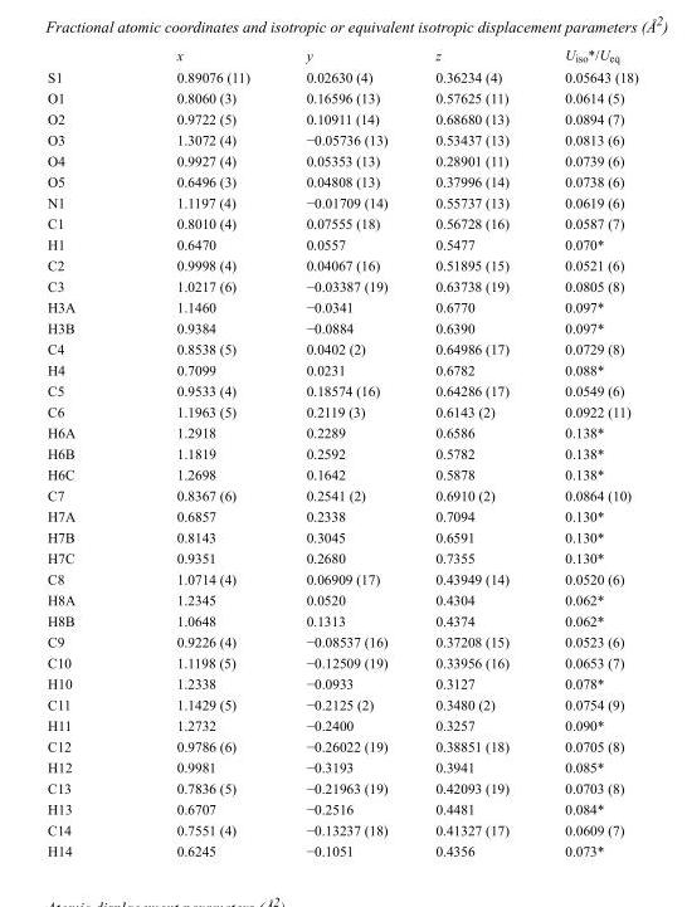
<table><thead><tr><td></td><td>x</td><td>y</td><td>z</td><td>U<sub>iso</sub>*/U<sub>eq</sub></td></tr></thead><tbody><tr><td>S1</td><td>0.89076 (11)</td><td>0.02630 (4)</td><td>0.36234 (4)</td><td>0.05643 (18)</td></tr><tr><td>O1</td><td>0.8060 (3)</td><td>0.16596 (13)</td><td>0.57625 (11)</td><td>0.0614 (5)</td></tr><tr><td>O2</td><td>0.9722 (5)</td><td>0.10911 (14)</td><td>0.68680 (13)</td><td>0.0894 (7)</td></tr><tr><td>O3</td><td>1.3072 (4)</td><td>−0.05736 (13)</td><td>0.53437 (13)</td><td>0.0813 (6)</td></tr><tr><td>O4</td><td>0.9927 (4)</td><td>0.05353 (13)</td><td>0.28901 (11)</td><td>0.0739 (6)</td></tr><tr><td>O5</td><td>0.6496 (3)</td><td>0.04808 (13)</td><td>0.37996 (14)</td><td>0.0738 (6)</td></tr><tr><td>N1</td><td>1.1197 (4)</td><td>−0.01709 (14)</td><td>0.55737 (13)</td><td>0.0619 (6)</td></tr><tr><td>C1</td><td>0.8010 (4)</td><td>0.07555 (18)</td><td>0.56728 (16)</td><td>0.0587 (7)</td></tr><tr><td>H1</td><td>0.6470</td><td>0.0557</td><td>0.5477</td><td>0.070*</td></tr><tr><td>C2</td><td>0.9998 (4)</td><td>0.04067 (16)</td><td>0.51895 (15)</td><td>0.0521 (6)</td></tr><tr><td>C3</td><td>1.0217 (6)</td><td>−0.03387 (19)</td><td>0.63738 (19)</td><td>0.0805 (8)</td></tr><tr><td>H3A</td><td>1.1460</td><td>−0.0341</td><td>0.6770</td><td>0.097*</td></tr><tr><td>H3B</td><td>0.9384</td><td>−0.0884</td><td>0.6390</td><td>0.097*</td></tr><tr><td>C4</td><td>0.8538 (5)</td><td>0.0402 (2)</td><td>0.64986 (17)</td><td>0.0729 (8)</td></tr><tr><td>H4</td><td>0.7099</td><td>0.0231</td><td>0.6782</td><td>0.088*</td></tr><tr><td>C5</td><td>0.9533 (4)</td><td>0.18574 (16)</td><td>0.64286 (17)</td><td>0.0549 (6)</td></tr><tr><td>C6</td><td>1.1963 (5)</td><td>0.2119 (3)</td><td>0.6143 (2)</td><td>0.0922 (11)</td></tr><tr><td>H6A</td><td>1.2918</td><td>0.2289</td><td>0.6586</td><td>0.138*</td></tr><tr><td>H6B</td><td>1.1819</td><td>0.2592</td><td>0.5782</td><td>0.138*</td></tr><tr><td>H6C</td><td>1.2698</td><td>0.1642</td><td>0.5878</td><td>0.138*</td></tr><tr><td>C7</td><td>0.8367 (6)</td><td>0.2541 (2)</td><td>0.6910 (2)</td><td>0.0864 (10)</td></tr><tr><td>H7A</td><td>0.6857</td><td>0.2338</td><td>0.7094</td><td>0.130*</td></tr><tr><td>H7B</td><td>0.8143</td><td>0.3045</td><td>0.6591</td><td>0.130*</td></tr><tr><td>H7C</td><td>0.9351</td><td>0.2680</td><td>0.7355</td><td>0.130*</td></tr><tr><td>C8</td><td>1.0714 (4)</td><td>0.06909 (17)</td><td>0.43949 (14)</td><td>0.0520 (6)</td></tr><tr><td>H8A</td><td>1.2345</td><td>0.0520</td><td>0.4304</td><td>0.062*</td></tr><tr><td>H8B</td><td>1.0648</td><td>0.1313</td><td>0.4374</td><td>0.062*</td></tr><tr><td>C9</td><td>0.9226 (4)</td><td>−0.08537 (16)</td><td>0.37208 (15)</td><td>0.0523 (6)</td></tr><tr><td>C10</td><td>1.1198 (5)</td><td>−0.12509 (19)</td><td>0.33956 (16)</td><td>0.0653 (7)</td></tr><tr><td>H10</td><td>1.2338</td><td>−0.0933</td><td>0.3127</td><td>0.078*</td></tr><tr><td>C11</td><td>1.1429 (5)</td><td>−0.2125 (2)</td><td>0.3480 (2)</td><td>0.0754 (9)</td></tr><tr><td>H11</td><td>1.2732</td><td>−0.2400</td><td>0.3257</td><td>0.090*</td></tr><tr><td>C12</td><td>0.9786 (6)</td><td>−0.26022 (19)</td><td>0.38851 (18)</td><td>0.0705 (8)</td></tr><tr><td>H12</td><td>0.9981</td><td>−0.3193</td><td>0.3941</td><td>0.085*</td></tr><tr><td>C13</td><td>0.7836 (5)</td><td>−0.21963 (19)</td><td>0.42093 (19)</td><td>0.0703 (8)</td></tr><tr><td>H13</td><td>0.6707</td><td>−0.2516</td><td>0.4481</td><td>0.084*</td></tr><tr><td>C14</td><td>0.7551 (4)</td><td>−0.13237 (18)</td><td>0.41327 (17)</td><td>0.0609 (7)</td></tr><tr><td>H14</td><td>0.6245</td><td>−0.1051</td><td>0.4356</td><td>0.073*</td></tr></tbody></table>